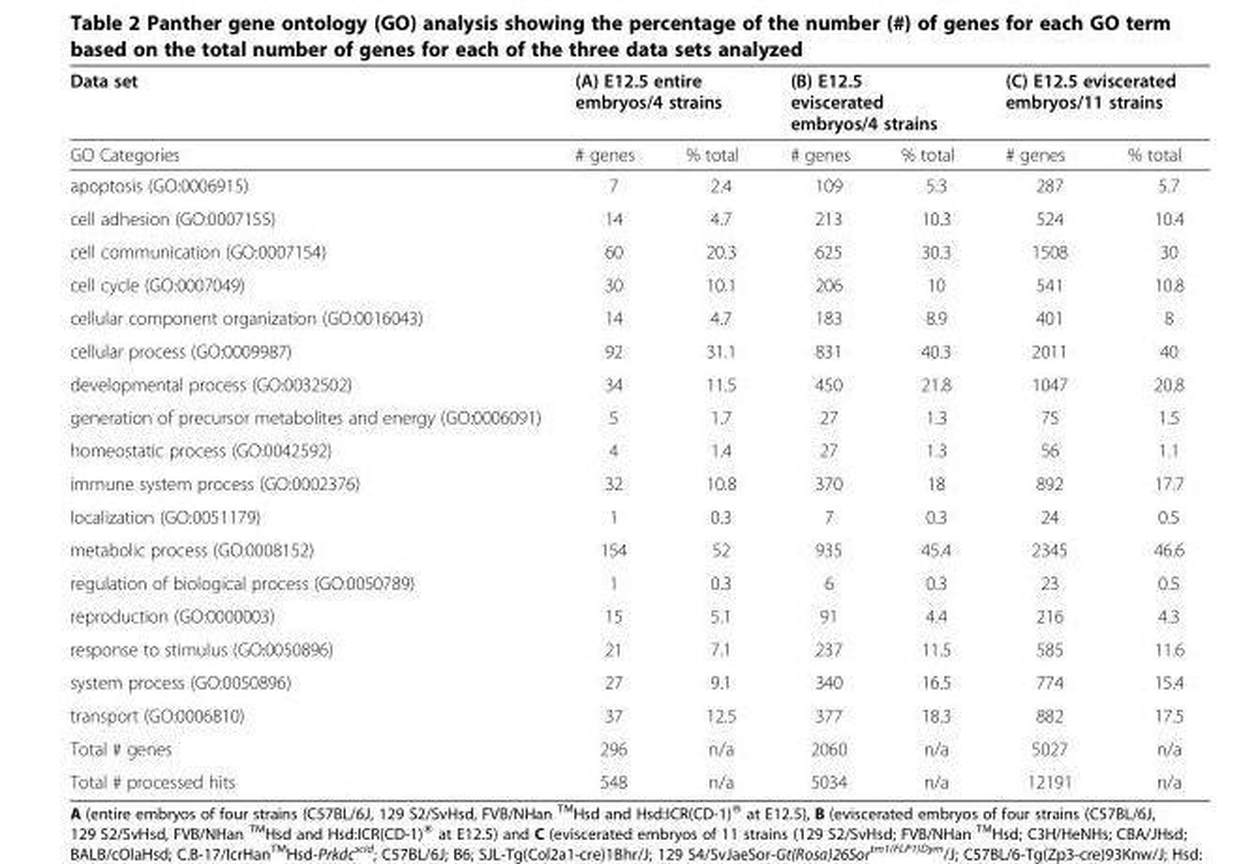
<table><thead><tr><td rowspan="2">Data set GO Categories</td><td colspan="2">(A) E12.5 entire embryos/4 strains</td><td colspan="2">(B) E12.5 eviscerated embryos/4 strains</td><td colspan="2">(C) E12.5 eviscerated embryos/11 strains</td></tr><tr><td># genes</td><td>% total</td><td># genes</td><td>% total</td><td># genes</td><td>% total</td></tr></thead><tbody><tr><td>apoptosis (GO:0006915)</td><td>7</td><td>2.4</td><td>109</td><td>5.3</td><td>287</td><td>5.7</td></tr><tr><td>cell adhesion (GO:0007155)</td><td>14</td><td>4.7</td><td>213</td><td>10.3</td><td>524</td><td>10.4</td></tr><tr><td>cell communication (GO:0007154)</td><td>60</td><td>20.3</td><td>625</td><td>30.3</td><td>1508</td><td>30</td></tr><tr><td>cell cycle (GO:0007049)</td><td>30</td><td>10.1</td><td>206</td><td>10</td><td>541</td><td>10.8</td></tr><tr><td>cellular component organization (GO:0016043)</td><td>14</td><td>4.7</td><td>183</td><td>8.9</td><td>401</td><td>8</td></tr><tr><td>cellular process (GO:0009987)</td><td>92</td><td>31.1</td><td>831</td><td>40.3</td><td>2011</td><td>40</td></tr><tr><td>developmental process (GO:0032502)</td><td>34</td><td>11.5</td><td>450</td><td>21.8</td><td>1047</td><td>20.8</td></tr><tr><td>generation of precursor metabolites and energy (GO:0006091)</td><td>5</td><td>1.7</td><td>27</td><td>1.3</td><td>75</td><td>1.5</td></tr><tr><td>homeostatic process (GO:0042592)</td><td>4</td><td>1.4</td><td>27</td><td>1.3</td><td>56</td><td>1.1</td></tr><tr><td>immune system process (GO:0002376)</td><td>32</td><td>10.8</td><td>370</td><td>18</td><td>892</td><td>17.7</td></tr><tr><td>localization (GO:0051179)</td><td>1</td><td>0.3</td><td>7</td><td>0.3</td><td>24</td><td>0.5</td></tr><tr><td>metabolic process (GO:0008152)</td><td>154</td><td>52</td><td>935</td><td>45.4</td><td>2345</td><td>46.6</td></tr><tr><td>regulation of biological process (GO:0050789)</td><td>1</td><td>0.3</td><td>6</td><td>0.3</td><td>23</td><td>0.5</td></tr><tr><td>reproduction (GO:0000003)</td><td>15</td><td>5.1</td><td>91</td><td>4.4</td><td>216</td><td>4.3</td></tr><tr><td>response to stimulus (GO:0050896)</td><td>21</td><td>7.1</td><td>237</td><td>11.5</td><td>585</td><td>11.6</td></tr><tr><td>system process (GO:0050896)</td><td>27</td><td>9.1</td><td>340</td><td>16.5</td><td>774</td><td>15.4</td></tr><tr><td>transport (GO:0006810)</td><td>37</td><td>12.5</td><td>377</td><td>18.3</td><td>882</td><td>17.5</td></tr><tr><td>Total # genes</td><td>296</td><td>n/a</td><td>2060</td><td>n/a</td><td>5027</td><td>n/a</td></tr><tr><td>Total # processed hits</td><td>548</td><td>n/a</td><td>5034</td><td>n/a</td><td>12191</td><td>n/a</td></tr></tbody></table>